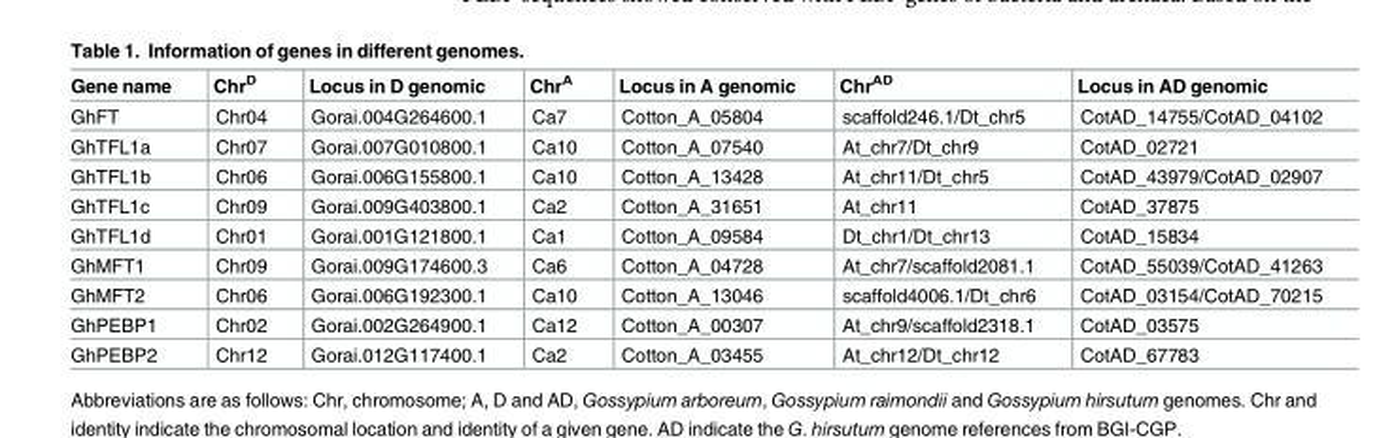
<table><thead><tr><td>Gene name</td><td>Chr<sup>D</sup></td><td>Locus in D genomic</td><td>Chr<sup>A</sup></td><td>Locus in A genomic</td><td>Chr<sup>AD</sup></td><td>Locus in AD genomic</td></tr></thead><tbody><tr><td>GhFT</td><td>Chr04</td><td>Gorai.004G264600.1</td><td>Ca7</td><td>Cotton_A_05804</td><td>scaffold246.1/Dt_chr5</td><td>CotAD_14755/CotAD_04102</td></tr><tr><td>GhTFL1a</td><td>Chr07</td><td>Gorai.007G010800.1</td><td>Ca10</td><td>Cotton_A_07540</td><td>At_chr7/Dt_chr9</td><td>CotAD_02721</td></tr><tr><td>GhTFL1b</td><td>Chr06</td><td>Gorai.006G155800.1</td><td>Ca10</td><td>Cotton_A_13428</td><td>At_chr11/Dt_chr5</td><td>CotAD_43979/CotAD_02907</td></tr><tr><td>GhTFL1c</td><td>Chr09</td><td>Gorai.009G403800.1</td><td>Ca2</td><td>Cotton_A_31651</td><td>At_chr11</td><td>CotAD_37875</td></tr><tr><td>GhTFL1d</td><td>Chr01</td><td>Gorai.001G121800.1</td><td>Ca1</td><td>Cotton_A_09584</td><td>Dt_chr1/Dt_chr13</td><td>CotAD_15834</td></tr><tr><td>GhMFT1</td><td>Chr09</td><td>Gorai.009G174600.3</td><td>Ca6</td><td>Cotton_A_04728</td><td>At_chr7/scaffold2081.1</td><td>CotAD_55039/CotAD_41263</td></tr><tr><td>GhMFT2</td><td>Chr06</td><td>Gorai.006G192300.1</td><td>Ca10</td><td>Cotton_A_13046</td><td>scaffold4006.1/Dt_chr6</td><td>CotAD_03154/CotAD_70215</td></tr><tr><td>GhPEBP1</td><td>Chr02</td><td>Gorai.002G264900.1</td><td>Ca12</td><td>Cotton_A_00307</td><td>At_chr9/scaffold2318.1</td><td>CotAD_03575</td></tr><tr><td>GhPEBP2</td><td>Chr12</td><td>Gorai.012G117400.1</td><td>Ca2</td><td>Cotton_A_03455</td><td>At_chr12/Dt_chr12</td><td>CotAD_67783</td></tr></tbody></table>